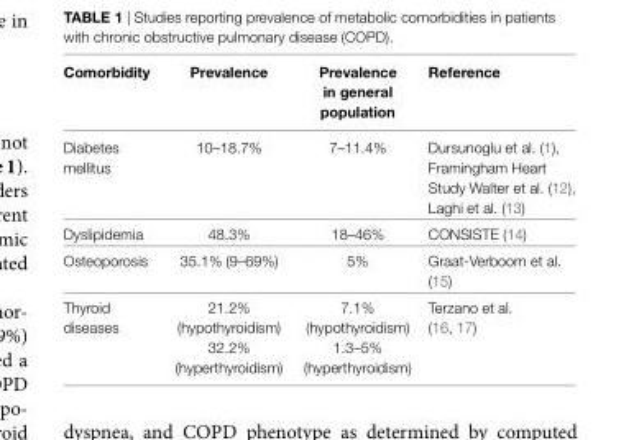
<table><thead><tr><td>Comorbidity</td><td>Prevalence</td><td>Prevalence in general population</td><td>Reference</td></tr></thead><tbody><tr><td>Diabetes mellitus</td><td>10–18.7%</td><td>7–11.4%</td><td>Dursunoglu et al. (1), Framingham Heart Study Walter et al. (12), Laghi et al. (13)</td></tr><tr><td>Dyslipidemia</td><td>48.3%</td><td>18–46%</td><td>CONSISTE (14)</td></tr><tr><td>Osteoporosis</td><td>35.1% (9–69%)</td><td>5%</td><td>Graat-Verboom et al. (15)</td></tr><tr><td rowspan="2">Thyroid diseases</td><td>21.2% (hypothyroidism)</td><td>7.1% (hypothyroidism)</td><td rowspan="2">Terzano et al. (16, 17)</td></tr><tr><td>32.2% (hyperthyroidism)</td><td>1.3–5% (hyperthyroidism)</td></tr></tbody></table>